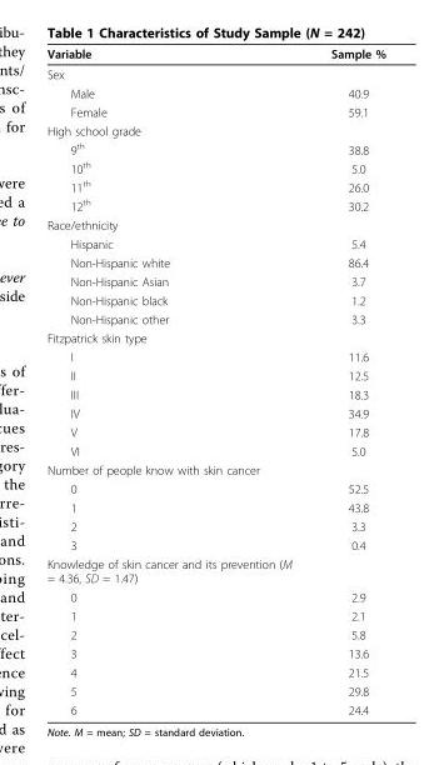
<table><thead><tr><td>Variable</td><td>Sample %</td></tr></thead><tbody><tr><td colspan="2">Sex</td></tr><tr><td>Male</td><td>40.9</td></tr><tr><td>Female</td><td>59.1</td></tr><tr><td colspan="2">High school grade</td></tr><tr><td>9<sup>th</sup></td><td>38.8</td></tr><tr><td>10<sup>th</sup></td><td>5.0</td></tr><tr><td>11<sup>th</sup></td><td>26.0</td></tr><tr><td>12<sup>th</sup></td><td>30.2</td></tr><tr><td colspan="2">Race/ethnicity</td></tr><tr><td>Hispanic</td><td>5.4</td></tr><tr><td>Non-Hispanic white</td><td>86.4</td></tr><tr><td>Non-Hispanic Asian</td><td>3.7</td></tr><tr><td>Non-Hispanic black</td><td>1.2</td></tr><tr><td>Non-Hispanic other</td><td>3.3</td></tr><tr><td colspan="2">Fitzpatrick skin type</td></tr><tr><td>I</td><td>11.6</td></tr><tr><td>II</td><td>12.5</td></tr><tr><td>III</td><td>18.3</td></tr><tr><td>IV</td><td>34.9</td></tr><tr><td>V</td><td>17.8</td></tr><tr><td>VI</td><td>5.0</td></tr><tr><td colspan="2">Number of people know with skin cancer</td></tr><tr><td>0</td><td>52.5</td></tr><tr><td>1</td><td>43.8</td></tr><tr><td>2</td><td>3.3</td></tr><tr><td>3</td><td>0.4</td></tr><tr><td colspan="2">Knowledge of skin cancer and its prevention (M = 4.36, SD = 1.47)</td></tr><tr><td>0</td><td>2.9</td></tr><tr><td>1</td><td>2.1</td></tr><tr><td>2</td><td>5.8</td></tr><tr><td>3</td><td>13.6</td></tr><tr><td>4</td><td>21.5</td></tr><tr><td>5</td><td>29.8</td></tr><tr><td>6</td><td>24.4</td></tr></tbody></table>